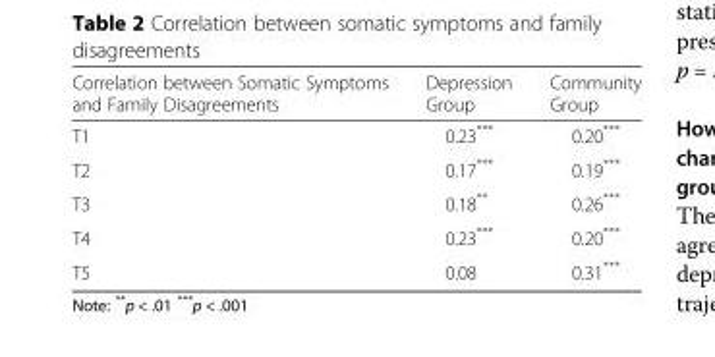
<table><thead><tr><td>Correlation between Somatic Symptoms and Family Disagreements</td><td>Depression Group</td><td>Community Group</td></tr></thead><tbody><tr><td>T1</td><td>0.23***</td><td>0.20***</td></tr><tr><td>T2</td><td>0.17***</td><td>0.19***</td></tr><tr><td>T3</td><td>0.18**</td><td>0.26***</td></tr><tr><td>T4</td><td>0.23***</td><td>0.20***</td></tr><tr><td>T5</td><td>0.08</td><td>0.31***</td></tr></tbody></table>